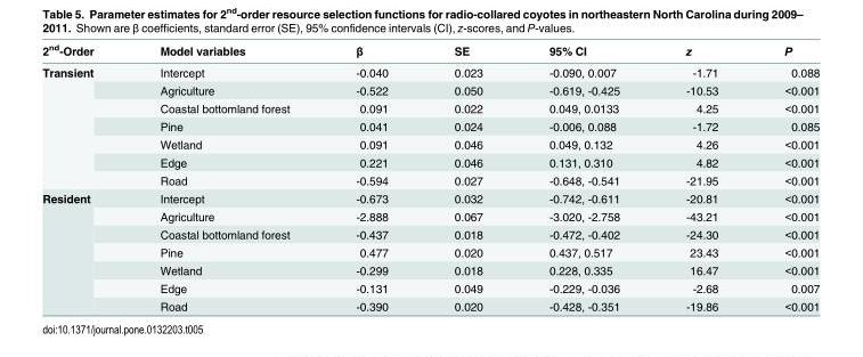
<table><thead><tr><td>2<sup>nd</sup>-Order</td><td>Model variables</td><td>β</td><td>SE</td><td>95% CI</td><td>z</td><td>P</td></tr></thead><tbody><tr><td rowspan="7">Transient</td><td>Intercept</td><td>-0.040</td><td>0.023</td><td>-0.090, 0.007</td><td>-1.71</td><td>0.088</td></tr><tr><td>Agriculture</td><td>-0.522</td><td>0.050</td><td>-0.619, -0.425</td><td>-10.53</td><td>&lt;0.001</td></tr><tr><td>Coastal bottomland forest</td><td>0.091</td><td>0.022</td><td>0.049, 0.0133</td><td>4.25</td><td>&lt;0.001</td></tr><tr><td>Pine</td><td>0.041</td><td>0.024</td><td>-0.006, 0.088</td><td>-1.72</td><td>0.085</td></tr><tr><td>Wetland</td><td>0.091</td><td>0.046</td><td>0.049, 0.132</td><td>4.26</td><td>&lt;0.001</td></tr><tr><td>Edge</td><td>0.221</td><td>0.046</td><td>0.131, 0.310</td><td>4.82</td><td>&lt;0.001</td></tr><tr><td>Road</td><td>-0.594</td><td>0.027</td><td>-0.648, -0.541</td><td>-21.95</td><td>&lt;0.001</td></tr><tr><td rowspan="7">Resident</td><td>Intercept</td><td>-0.673</td><td>0.032</td><td>-0.742, -0.611</td><td>-20.81</td><td>&lt;0.001</td></tr><tr><td>Agriculture</td><td>-2.888</td><td>0.067</td><td>-3.020, -2.758</td><td>-43.21</td><td>&lt;0.001</td></tr><tr><td>Coastal bottomland forest</td><td>-0.437</td><td>0.018</td><td>-0.472, -0.402</td><td>-24.30</td><td>&lt;0.001</td></tr><tr><td>Pine</td><td>0.477</td><td>0.020</td><td>0.437, 0.517</td><td>23.43</td><td>&lt;0.001</td></tr><tr><td>Wetland</td><td>-0.299</td><td>0.018</td><td>0.228, 0.335</td><td>16.47</td><td>&lt;0.001</td></tr><tr><td>Edge</td><td>-0.131</td><td>0.049</td><td>-0.229, -0.036</td><td>-2.68</td><td>0.007</td></tr><tr><td>Road</td><td>-0.390</td><td>0.020</td><td>-0.428, -0.351</td><td>-19.86</td><td>&lt;0.001</td></tr></tbody></table>